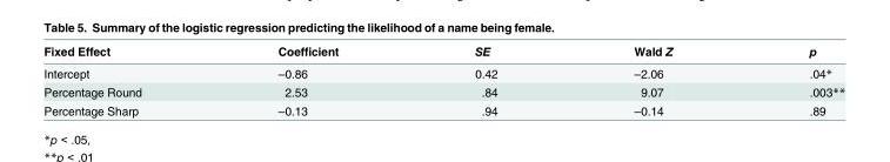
<table><thead><tr><td>Fixed Effect</td><td>Coefficient</td><td>SE</td><td>Wald Z</td><td>p</td></tr></thead><tbody><tr><td>Intercept</td><td>–0.86</td><td>0.42</td><td>–2.06</td><td>.04*</td></tr><tr><td>Percentage Round</td><td>2.53</td><td>.84</td><td>9.07</td><td>.003**</td></tr><tr><td>Percentage Sharp</td><td>–0.13</td><td>.94</td><td>–0.14</td><td>.89</td></tr></tbody></table>